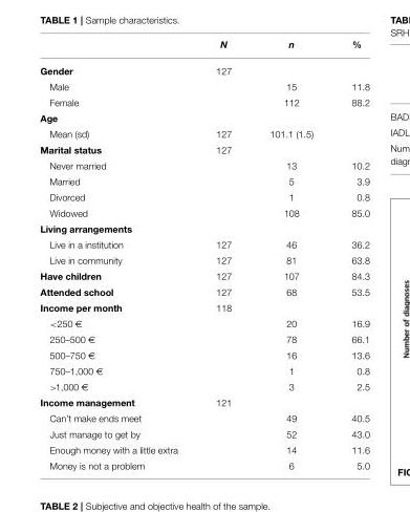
<table><thead><tr><td></td><td>N</td><td>n</td><td>%</td></tr></thead><tbody><tr><td>Gender</td><td>127</td><td></td><td></td></tr><tr><td>Male</td><td></td><td>15</td><td>11.8</td></tr><tr><td>Female</td><td></td><td>112</td><td>88.2</td></tr><tr><td colspan="4">Age</td></tr><tr><td>Mean (sd)</td><td>127</td><td>101.1 (1.5)</td><td></td></tr><tr><td>Marital status</td><td>127</td><td></td><td></td></tr><tr><td>Never married</td><td></td><td>13</td><td>10.2</td></tr><tr><td>Married</td><td></td><td>5</td><td>3.9</td></tr><tr><td>Divorced</td><td></td><td>1</td><td>0.8</td></tr><tr><td>Widowed</td><td></td><td>108</td><td>85.0</td></tr><tr><td colspan="4">Living arrangements</td></tr><tr><td>Live in a institution</td><td>127</td><td>46</td><td>36.2</td></tr><tr><td>Live in community</td><td>127</td><td>81</td><td>63.8</td></tr><tr><td>Have children</td><td>127</td><td>107</td><td>84.3</td></tr><tr><td>Attended school</td><td>127</td><td>68</td><td>53.5</td></tr><tr><td>Income per month</td><td>118</td><td></td><td></td></tr><tr><td>&lt;250 €</td><td></td><td>20</td><td>16.9</td></tr><tr><td>250–500 €</td><td></td><td>78</td><td>66.1</td></tr><tr><td>500–750 €</td><td></td><td>16</td><td>13.6</td></tr><tr><td>750–1,000 €</td><td></td><td>1</td><td>0.8</td></tr><tr><td>&gt;1,000 €</td><td></td><td>3</td><td>2.5</td></tr><tr><td>Income management</td><td>121</td><td></td><td></td></tr><tr><td>Can’t make ends meet</td><td></td><td>49</td><td>40.5</td></tr><tr><td>Just manage to get by</td><td></td><td>52</td><td>43.0</td></tr><tr><td>Enough money with a little extra</td><td></td><td>14</td><td>11.6</td></tr><tr><td>Money is not a problem</td><td></td><td>6</td><td>5.0</td></tr></tbody></table>